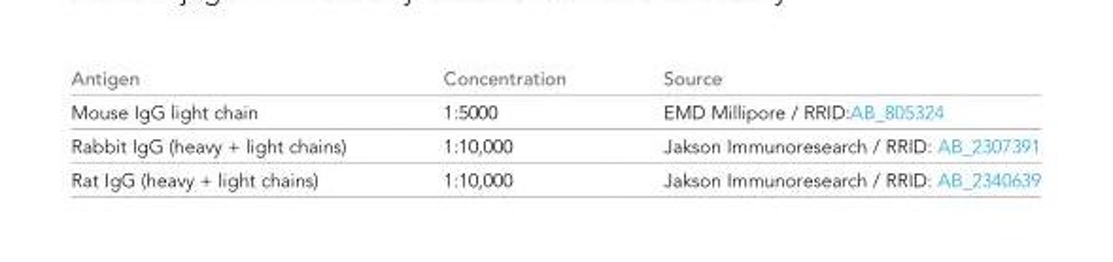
<table><thead><tr><td>Antigen</td><td>Concentration</td><td>Source</td></tr></thead><tbody><tr><td>Mouse IgG light chain</td><td>1:5000</td><td>EMD Millipore / RRID:AB_805324</td></tr><tr><td>Rabbit IgG (heavy + light chains)</td><td>1:10,000</td><td>Jakson Immunoresearch / RRID: AB_2307391</td></tr><tr><td>Rat IgG (heavy + light chains)</td><td>1:10,000</td><td>Jakson Immunoresearch / RRID: AB_2340639</td></tr></tbody></table>